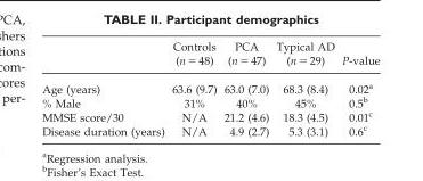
<table><thead><tr><td></td><td>Controls (n = 48)</td><td>PCA (n = 47)</td><td>Typical AD (n = 29)</td><td>P-value</td></tr></thead><tbody><tr><td>Age (years)</td><td>63.6 (9.7)</td><td>63.0 (7.0)</td><td>68.3 (8.4)</td><td>0.02<sup>a</sup></td></tr><tr><td>% Male</td><td>31%</td><td>40%</td><td>45%</td><td>0.5<sup>b</sup></td></tr><tr><td>MMSE score/30</td><td>N/A</td><td>21.2 (4.6)</td><td>18.3 (4.5)</td><td>0.01<sup>c</sup></td></tr><tr><td>Disease duration (years)</td><td>N/A</td><td>4.9 (2.7)</td><td>5.3 (3.1)</td><td>0.6<sup>c</sup></td></tr></tbody></table>